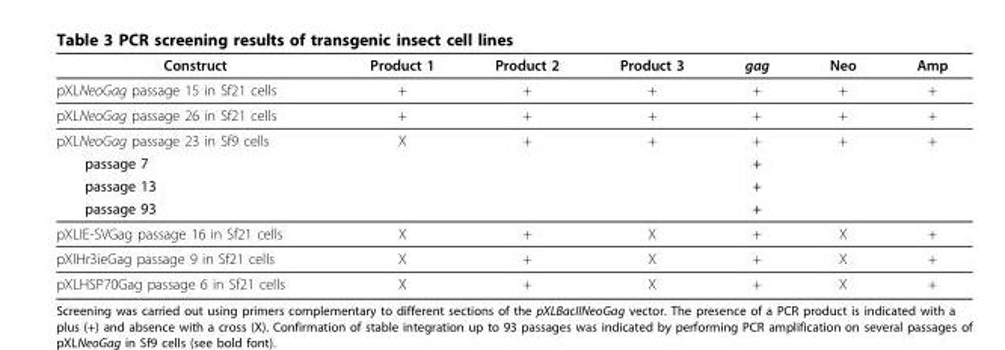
<table><thead><tr><td>Construct</td><td>Product 1</td><td>Product 2</td><td>Product 3</td><td>gag</td><td>Neo</td><td>Amp</td></tr></thead><tbody><tr><td>pXLNeoGag passage 15 in Sf21 cells</td><td>+</td><td>+</td><td>+</td><td>+</td><td>+</td><td>+</td></tr><tr><td>pXLNeoGag passage 26 in Sf21 cells</td><td>+</td><td>+</td><td>+</td><td>+</td><td>+</td><td>+</td></tr><tr><td>pXLNeoGag passage 23 in Sf9 cells</td><td>X</td><td>+</td><td>+</td><td>+</td><td>+</td><td>+</td></tr><tr><td>passage 7</td><td></td><td></td><td></td><td>+</td><td></td><td></td></tr><tr><td>passage 13</td><td></td><td></td><td></td><td>+</td><td></td><td></td></tr><tr><td>passage 93</td><td></td><td></td><td></td><td>+</td><td></td><td></td></tr><tr><td>pXLIE-SVGag passage 16 in Sf21 cells</td><td>X</td><td>+</td><td>X</td><td>+</td><td>X</td><td>+</td></tr><tr><td>pXlHr3ieGag passage 9 in Sf21 cells</td><td>X</td><td>+</td><td>X</td><td>+</td><td>X</td><td>+</td></tr><tr><td>pXLHSP70Gag passage 6 in Sf21 cells</td><td>X</td><td>+</td><td>X</td><td>+</td><td>X</td><td>+</td></tr></tbody></table>